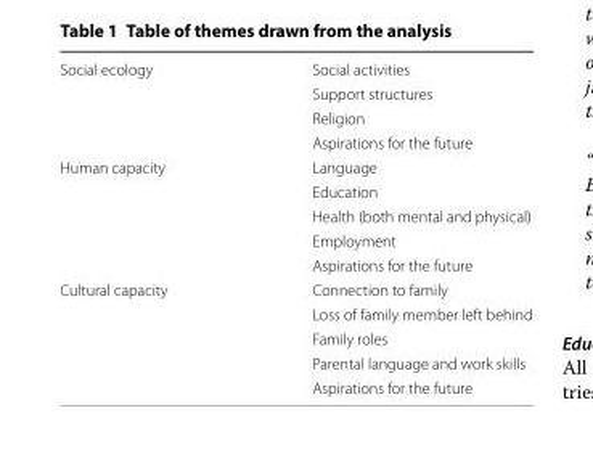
<table><tbody><tr><td rowspan="4">Social ecology</td><td>Social activities</td></tr><tr><td>Support structures</td></tr><tr><td>Religion</td></tr><tr><td>Aspirations for the future</td></tr><tr><td rowspan="5">Human capacity</td><td>Language</td></tr><tr><td>Education</td></tr><tr><td>Health (both mental and physical)</td></tr><tr><td>Employment</td></tr><tr><td>Aspirations for the future</td></tr><tr><td rowspan="5">Cultural capacity</td><td>Connection to family</td></tr><tr><td>Loss of family member left behind</td></tr><tr><td>Family roles</td></tr><tr><td>Parental language and work skills</td></tr><tr><td>Aspirations for the future</td></tr></tbody></table>